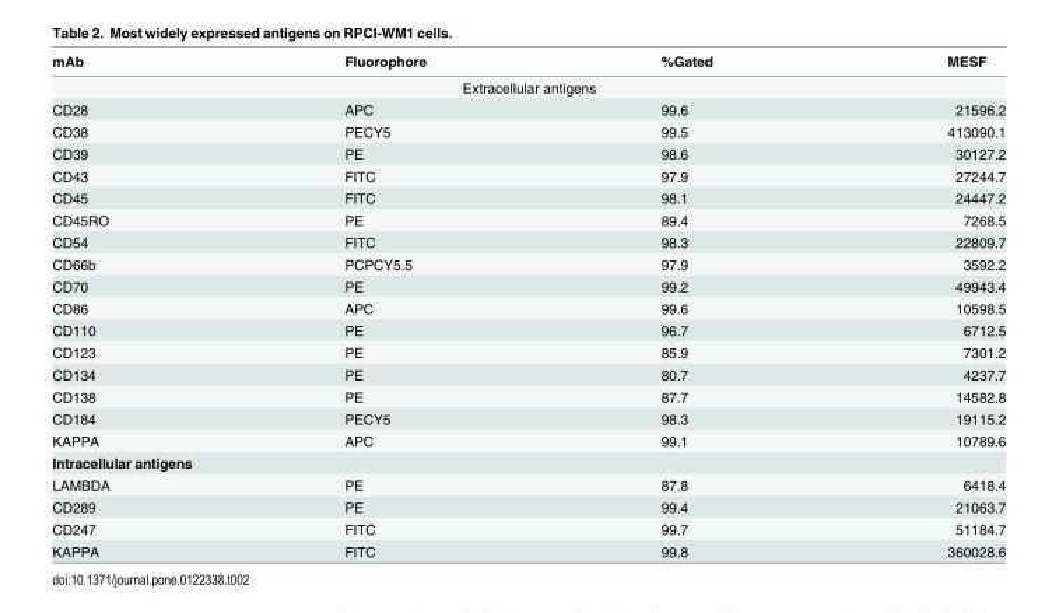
<table><thead><tr><td>mAb</td><td>Fluorophore</td><td>%Gated</td><td>MESF</td></tr></thead><tbody><tr><td colspan="4">Extracellular antigens</td></tr><tr><td>CD28</td><td>APC</td><td>99.6</td><td>21596.2</td></tr><tr><td>CD38</td><td>PECY5</td><td>99.5</td><td>413090.1</td></tr><tr><td>CD39</td><td>PE</td><td>98.6</td><td>30127.2</td></tr><tr><td>CD43</td><td>FITC</td><td>97.9</td><td>27244.7</td></tr><tr><td>CD45</td><td>FITC</td><td>98.1</td><td>24447.2</td></tr><tr><td>CD45RO</td><td>PE</td><td>89.4</td><td>7268.5</td></tr><tr><td>CD54</td><td>FITC</td><td>98.3</td><td>22809.7</td></tr><tr><td>CD66b</td><td>PCPCY5.5</td><td>97.9</td><td>3592.2</td></tr><tr><td>CD70</td><td>PE</td><td>99.2</td><td>49943.4</td></tr><tr><td>CD86</td><td>APC</td><td>99.6</td><td>10598.5</td></tr><tr><td>CD110</td><td>PE</td><td>96.7</td><td>6712.5</td></tr><tr><td>CD123</td><td>PE</td><td>85.9</td><td>7301.2</td></tr><tr><td>CD134</td><td>PE</td><td>80.7</td><td>4237.7</td></tr><tr><td>CD138</td><td>PE</td><td>87.7</td><td>14582.8</td></tr><tr><td>CD184</td><td>PECY5</td><td>98.3</td><td>19115.2</td></tr><tr><td>KAPPA</td><td>APC</td><td>99.1</td><td>10789.6</td></tr><tr><td colspan="4">Intracellular antigens</td></tr><tr><td>LAMBDA</td><td>PE</td><td>87.8</td><td>6418.4</td></tr><tr><td>CD289</td><td>PE</td><td>99.4</td><td>21063.7</td></tr><tr><td>CD247</td><td>FITC</td><td>99.7</td><td>51184.7</td></tr><tr><td>KAPPA</td><td>FITC</td><td>99.8</td><td>360028.6</td></tr></tbody></table>